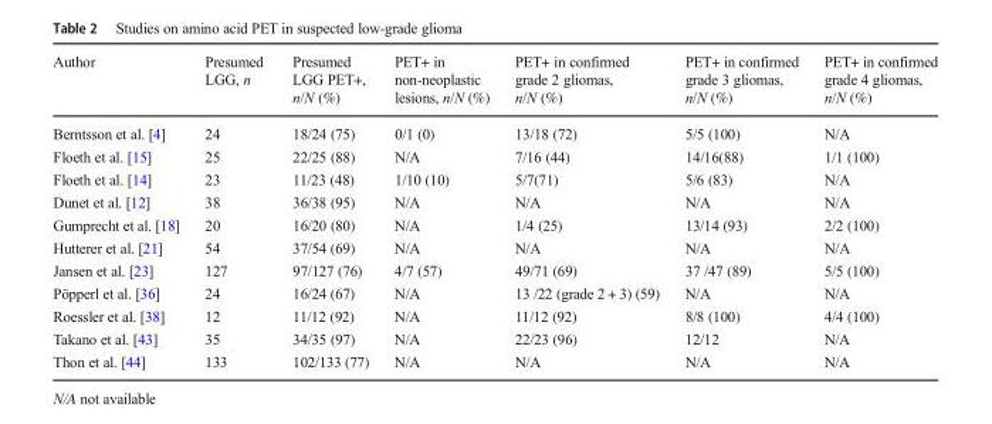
<table><thead><tr><td>Author</td><td>Presumed LGG, n</td><td>Presumed LGG PET+, n/N (%)</td><td>PET+ in non-neoplastic lesions, n/N (%)</td><td>PET+ in confirmed grade 2 gliomas, n/N (%)</td><td>PET+ in confirmed grade 3 gliomas, n/N (%)</td><td>PET+ in confirmed grade 4 gliomas, n/N (%)</td></tr></thead><tbody><tr><td>Berntsson et al. [4]</td><td>24</td><td>18/24 (75)</td><td>0/1 (0)</td><td>13/18 (72)</td><td>5/5 (100)</td><td>N/A</td></tr><tr><td>Floeth et al. [15]</td><td>25</td><td>22/25 (88)</td><td>N/A</td><td>7/16 (44)</td><td>14/16(88)</td><td>1/1 (100)</td></tr><tr><td>Floeth et al. [14]</td><td>23</td><td>11/23 (48)</td><td>1/10 (10)</td><td>5/7(71)</td><td>5/6 (83)</td><td>N/A</td></tr><tr><td>Dunet et al. [12]</td><td>38</td><td>36/38 (95)</td><td>N/A</td><td>N/A</td><td>N/A</td><td>N/A</td></tr><tr><td>Gumprecht et al. [18]</td><td>20</td><td>16/20 (80)</td><td>N/A</td><td>1/4 (25)</td><td>13/14 (93)</td><td>2/2 (100)</td></tr><tr><td>Hutterer et al. [21]</td><td>54</td><td>37/54 (69)</td><td>N/A</td><td>N/A</td><td>N/A</td><td>N/A</td></tr><tr><td>Jansen et al. [23]</td><td>127</td><td>97/127 (76)</td><td>4/7 (57)</td><td>49/71 (69)</td><td>37 /47 (89)</td><td>5/5 (100)</td></tr><tr><td>Pöpperl et al. [36]</td><td>24</td><td>16/24 (67)</td><td>N/A</td><td>13 /22 (grade 2 + 3) (59)</td><td>N/A</td><td>N/A</td></tr><tr><td>Roessler et al. [38]</td><td>12</td><td>11/12 (92)</td><td>N/A</td><td>11/12 (92)</td><td>8/8 (100)</td><td>4/4 (100)</td></tr><tr><td>Takano et al. [43]</td><td>35</td><td>34/35 (97)</td><td>N/A</td><td>22/23 (96)</td><td>12/12</td><td>N/A</td></tr><tr><td>Thon et al. [44]</td><td>133</td><td>102/133 (77)</td><td>N/A</td><td>N/A</td><td>N/A</td><td>N/A</td></tr></tbody></table>